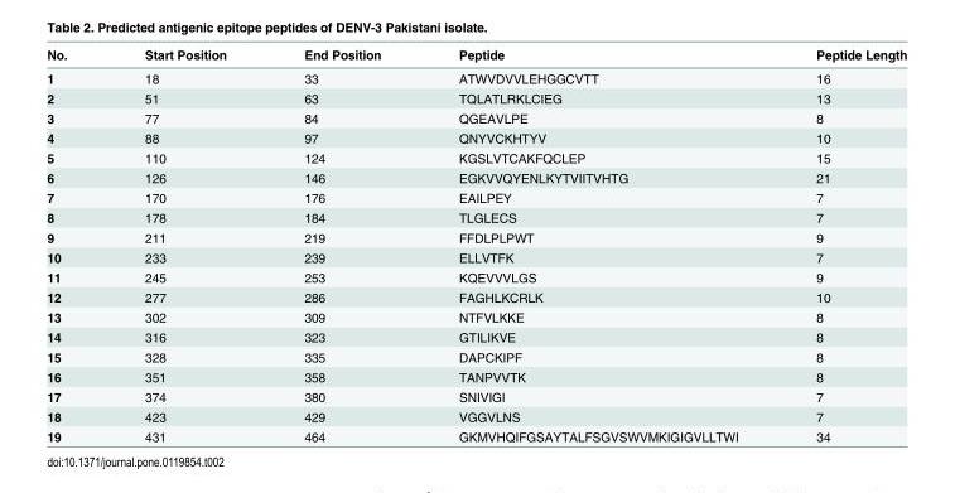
<table><thead><tr><td>No.</td><td>Start Position</td><td>End Position</td><td>Peptide</td><td>Peptide Length</td></tr></thead><tbody><tr><td>1</td><td>18</td><td>33</td><td>ATWVDVVLEHGGCVTT</td><td>16</td></tr><tr><td>2</td><td>51</td><td>63</td><td>TQLATLRKLCIEG</td><td>13</td></tr><tr><td>3</td><td>77</td><td>84</td><td>QGEAVLPE</td><td>8</td></tr><tr><td>4</td><td>88</td><td>97</td><td>QNYVCKHTYV</td><td>10</td></tr><tr><td>5</td><td>110</td><td>124</td><td>KGSLVTCAKFQCLEP</td><td>15</td></tr><tr><td>6</td><td>126</td><td>146</td><td>EGKVVQYENLKYTVIITVHTG</td><td>21</td></tr><tr><td>7</td><td>170</td><td>176</td><td>EAILPEY</td><td>7</td></tr><tr><td>8</td><td>178</td><td>184</td><td>TLGLECS</td><td>7</td></tr><tr><td>9</td><td>211</td><td>219</td><td>FFDLPLPWT</td><td>9</td></tr><tr><td>10</td><td>233</td><td>239</td><td>ELLVTFK</td><td>7</td></tr><tr><td>11</td><td>245</td><td>253</td><td>KQEVVVLGS</td><td>9</td></tr><tr><td>12</td><td>277</td><td>286</td><td>FAGHLKCRLK</td><td>10</td></tr><tr><td>13</td><td>302</td><td>309</td><td>NTFVLKKE</td><td>8</td></tr><tr><td>14</td><td>316</td><td>323</td><td>GTILIKVE</td><td>8</td></tr><tr><td>15</td><td>328</td><td>335</td><td>DAPCKIPF</td><td>8</td></tr><tr><td>16</td><td>351</td><td>358</td><td>TANPVVTK</td><td>8</td></tr><tr><td>17</td><td>374</td><td>380</td><td>SNIVIGI</td><td>7</td></tr><tr><td>18</td><td>423</td><td>429</td><td>VGGVLNS</td><td>7</td></tr><tr><td>19</td><td>431</td><td>464</td><td>GKMVHQIFGSAYTALFSGVSWVMKIGIGVLLTWI</td><td>34</td></tr></tbody></table>